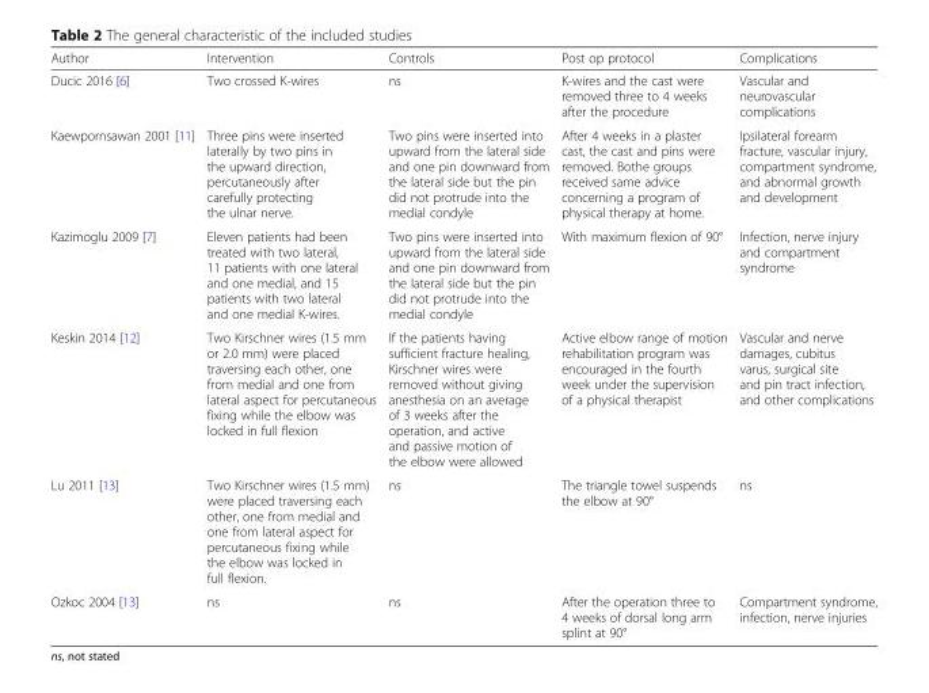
<table><thead><tr><td>Author</td><td>Intervention</td><td>Controls</td><td>Post op protocol</td><td>Complications</td></tr></thead><tbody><tr><td>Ducic 2016 [6]</td><td>Two crossed K-wires</td><td>ns</td><td>K-wires and the cast were removed three to 4 weeks after the procedure</td><td>Vascular and neurovascular complications</td></tr><tr><td>Kaewpornsawan 2001 [11]</td><td>Three pins were inserted laterally by two pins in the upward direction, percutaneously after carefully protecting the ulnar nerve.</td><td>Two pins were inserted into upward from the lateral side and one pin downward from the lateral side but the pin did not protrude into the medial condyle</td><td>After 4 weeks in a plaster cast, the cast and pins were removed. Bothe groups received same advice concerning a program of physical therapy at home.</td><td>Ipsilateral forearm fracture, vascular injury, compartment syndrome, and abnormal growth and development</td></tr><tr><td>Kazimoglu 2009 [7]</td><td>Eleven patients had been treated with two lateral, 11 patients with one lateral and one medial, and 15 patients with two lateral and one medial K-wires.</td><td>Two pins were inserted into upward from the lateral side and one pin downward from the lateral side but the pin did not protrude into the medial condyle</td><td>With maximum flexion of 90°</td><td>Infection, nerve injury and compartment syndrome</td></tr><tr><td>Keskin 2014 [12]</td><td>Two Kirschner wires (1.5 mm or 2.0 mm) were placed traversing each other, one from medial and one from lateral aspect for percutaneous fixing while the elbow was locked in full flexion</td><td>If the patients having sufficient fracture healing, Kirschner wires were removed without giving anesthesia on an average of 3 weeks after the operation, and active and passive motion of the elbow were allowed</td><td>Active elbow range of motion rehabilitation program was encouraged in the fourth week under the supervision of a physical therapist</td><td>Vascular and nerve damages, cubitus varus, surgical site and pin tract infection, and other complications</td></tr><tr><td>Lu 2011 [13]</td><td>Two Kirschner wires (1.5 mm) were placed traversing each other, one from medial and one from lateral aspect for percutaneous fixing while the elbow was locked in full flexion.</td><td>ns</td><td>The triangle towel suspends the elbow at 90°</td><td>ns</td></tr><tr><td>Ozkoc 2004 [13]</td><td>ns</td><td>ns</td><td>After the operation three to 4 weeks of dorsal long arm splint at 90°</td><td>Compartment syndrome, infection, nerve injuries</td></tr></tbody></table>